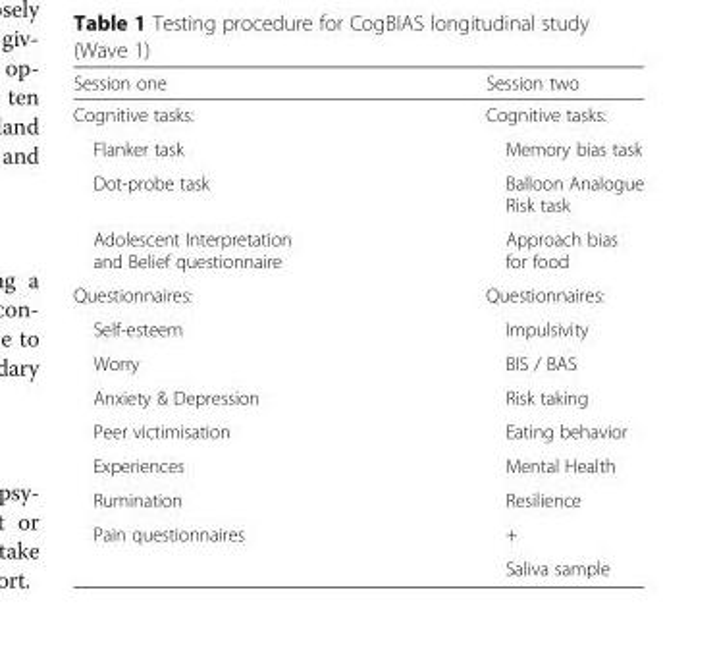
<table><thead><tr><td>Session one</td><td>Session two</td></tr></thead><tbody><tr><td>Cognitive tasks:</td><td>Cognitive tasks:</td></tr><tr><td>Flanker task</td><td>Memory bias task</td></tr><tr><td>Dot-probe task</td><td>Balloon Analogue Risk task</td></tr><tr><td>Adolescent Interpretation and Belief questionnaire</td><td>Approach bias for food</td></tr><tr><td>Questionnaires:</td><td>Questionnaires:</td></tr><tr><td>Self-esteem</td><td>Impulsivity</td></tr><tr><td>Worry</td><td>BIS / BAS</td></tr><tr><td>Anxiety &amp; Depression</td><td>Risk taking</td></tr><tr><td>Peer victimisation</td><td>Eating behavior</td></tr><tr><td>Experiences</td><td>Mental Health</td></tr><tr><td>Rumination</td><td>Resilience</td></tr><tr><td rowspan="2">Pain questionnaires</td><td>+</td></tr><tr><td>Saliva sample</td></tr></tbody></table>